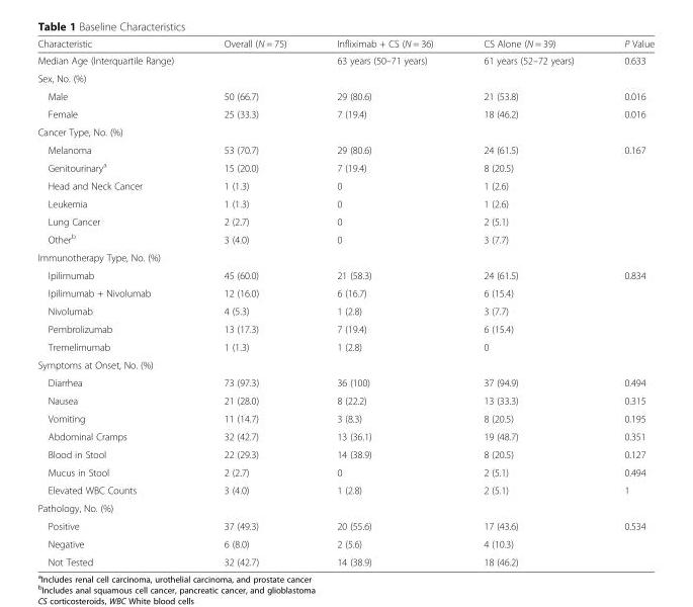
<table><thead><tr><td>Characteristic</td><td>Overall (N = 75)</td><td>Infliximab + CS (N = 36)</td><td>CS Alone (N = 39)</td><td>P Value</td></tr></thead><tbody><tr><td>Median Age (Interquartile Range)</td><td></td><td>63 years (50–71 years)</td><td>61 years (52–72 years)</td><td>0.633</td></tr><tr><td colspan="5">Sex, No. (%)</td></tr><tr><td>Male</td><td>50 (66.7)</td><td>29 (80.6)</td><td>21 (53.8)</td><td>0.016</td></tr><tr><td>Female</td><td>25 (33.3)</td><td>7 (19.4)</td><td>18 (46.2)</td><td>0.016</td></tr><tr><td colspan="5">Cancer Type, No. (%)</td></tr><tr><td>Melanoma</td><td>53 (70.7)</td><td>29 (80.6)</td><td>24 (61.5)</td><td>0.167</td></tr><tr><td>Genitourinary<sup>a</sup></td><td>15 (20.0)</td><td>7 (19.4)</td><td>8 (20.5)</td><td></td></tr><tr><td>Head and Neck Cancer</td><td>1 (1.3)</td><td>0</td><td>1 (2.6)</td><td></td></tr><tr><td>Leukemia</td><td>1 (1.3)</td><td>0</td><td>1 (2.6)</td><td></td></tr><tr><td>Lung Cancer</td><td>2 (2.7)</td><td>0</td><td>2 (5.1)</td><td></td></tr><tr><td>Other<sup>b</sup></td><td>3 (4.0)</td><td>0</td><td>3 (7.7)</td><td></td></tr><tr><td colspan="5">Immunotherapy Type, No. (%)</td></tr><tr><td>Ipilimumab</td><td>45 (60.0)</td><td>21 (58.3)</td><td>24 (61.5)</td><td>0.834</td></tr><tr><td>Ipilimumab + Nivolumab</td><td>12 (16.0)</td><td>6 (16.7)</td><td>6 (15.4)</td><td></td></tr><tr><td>Nivolumab</td><td>4 (5.3)</td><td>1 (2.8)</td><td>3 (7.7)</td><td></td></tr><tr><td>Pembrolizumab</td><td>13 (17.3)</td><td>7 (19.4)</td><td>6 (15.4)</td><td></td></tr><tr><td>Tremelimumab</td><td>1 (1.3)</td><td>1 (2.8)</td><td>0</td><td></td></tr><tr><td colspan="5">Symptoms at Onset, No. (%)</td></tr><tr><td>Diarrhea</td><td>73 (97.3)</td><td>36 (100)</td><td>37 (94.9)</td><td>0.494</td></tr><tr><td>Nausea</td><td>21 (28.0)</td><td>8 (22.2)</td><td>13 (33.3)</td><td>0.315</td></tr><tr><td>Vomiting</td><td>11 (14.7)</td><td>3 (8.3)</td><td>8 (20.5)</td><td>0.195</td></tr><tr><td>Abdominal Cramps</td><td>32 (42.7)</td><td>13 (36.1)</td><td>19 (48.7)</td><td>0.351</td></tr><tr><td>Blood in Stool</td><td>22 (29.3)</td><td>14 (38.9)</td><td>8 (20.5)</td><td>0.127</td></tr><tr><td>Mucus in Stool</td><td>2 (2.7)</td><td>0</td><td>2 (5.1)</td><td>0.494</td></tr><tr><td>Elevated WBC Counts</td><td>3 (4.0)</td><td>1 (2.8)</td><td>2 (5.1)</td><td>1</td></tr><tr><td colspan="5">Pathology, No. (%)</td></tr><tr><td>Positive</td><td>37 (49.3)</td><td>20 (55.6)</td><td>17 (43.6)</td><td>0.534</td></tr><tr><td>Negative</td><td>6 (8.0)</td><td>2 (5.6)</td><td>4 (10.3)</td><td></td></tr><tr><td>Not Tested</td><td>32 (42.7)</td><td>14 (38.9)</td><td>18 (46.2)</td><td></td></tr></tbody></table>